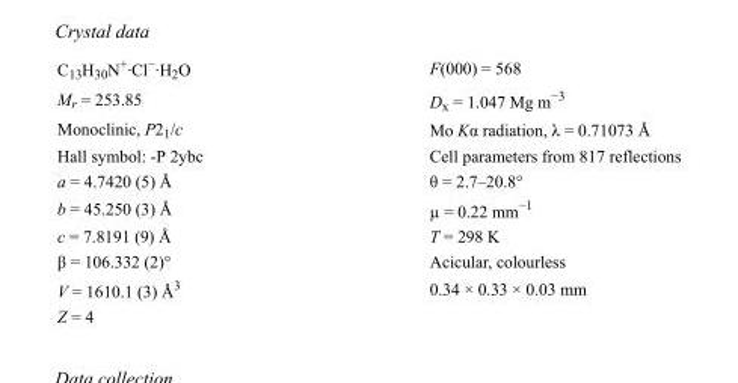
<table><tbody><tr><td>C<sub>13</sub>H<sub>30</sub>N<sup>+</sup>·Cl<sup>−</sup>·H<sub>2</sub>O</td><td>F(000) = 568</td></tr><tr><td>M<sub>r</sub> = 253.85</td><td>D<sub>x</sub> = 1.047 Mg m<sup>−3</sup></td></tr><tr><td>Monoclinic, P2<sub>1</sub>/c</td><td>Mo Kα radiation, λ = 0.71073 Å</td></tr><tr><td>Hall symbol: -P 2ybc</td><td>Cell parameters from 817 reflections</td></tr><tr><td>a = 4.7420 (5) Å</td><td>θ = 2.7–20.8°</td></tr><tr><td>b = 45.250 (3) Å</td><td>µ = 0.22 mm<sup>−1</sup></td></tr><tr><td>c = 7.8191 (9) Å</td><td>T = 298 K</td></tr><tr><td>β = 106.332 (2)°</td><td>Acicular, colourless</td></tr><tr><td>V = 1610.1 (3) Å<sup>3</sup></td><td>0.34 × 0.33 × 0.03 mm</td></tr><tr><td>Z = 4</td><td></td></tr></tbody></table>